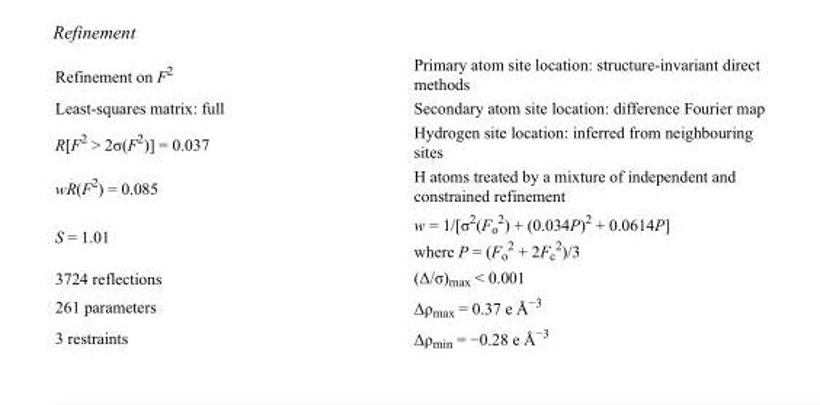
<table><tbody><tr><td>Refinement on F<sup>2</sup></td><td>Primary atom site location: structure-invariant direct methods</td></tr><tr><td>Least-squares matrix: full</td><td>Secondary atom site location: difference Fourier map</td></tr><tr><td>R[F<sup>2</sup> &gt; 2σ(F<sup>2</sup>)] = 0.037</td><td>Hydrogen site location: inferred from neighbouring sites</td></tr><tr><td>wR(F<sup>2</sup>) = 0.085</td><td>H atoms treated by a mixture of independent and constrained refinement</td></tr><tr><td>S = 1.01</td><td>w = 1/[σ<sup>2</sup>(F<sub>o</sub> <sup>2</sup>) + (0.034P)<sup>2</sup> + 0.0614P] where P = (F<sub>o</sub> <sup>2</sup> + 2F<sub>c</sub> <sup>2</sup>)/3</td></tr><tr><td>3724 reflections</td><td>(Δ/σ)<sub>max</sub> &lt; 0.001</td></tr><tr><td>261 parameters</td><td>Δρ<sub>max</sub> = 0.37 e Å<sup>−3</sup></td></tr><tr><td>3 restraints</td><td>Δρ<sub>min</sub> = −0.28 e Å<sup>−3</sup></td></tr></tbody></table>